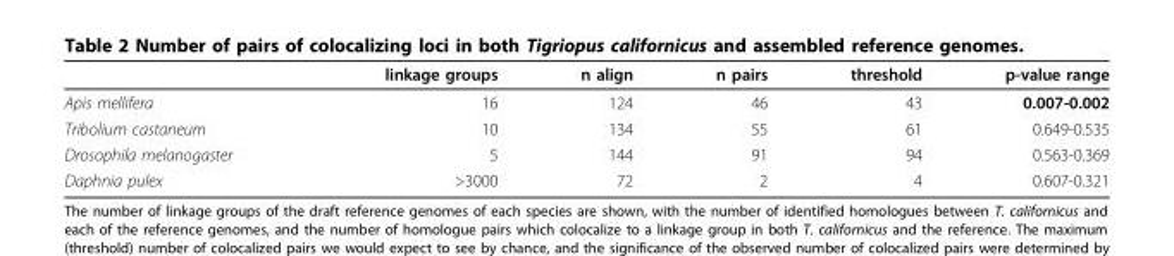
<table><thead><tr><td></td><td>linkage groups</td><td>n align</td><td>n pairs</td><td>threshold</td><td>p-value range</td></tr></thead><tbody><tr><td>Apis mellifera</td><td>16</td><td>124</td><td>46</td><td>43</td><td>0.007-0.002</td></tr><tr><td>Tribolium castaneum</td><td>10</td><td>134</td><td>55</td><td>61</td><td>0.649-0.535</td></tr><tr><td>Drosophila melanogaster</td><td>5</td><td>144</td><td>91</td><td>94</td><td>0.563-0.369</td></tr><tr><td>Daphnia pulex</td><td>&gt;3000</td><td>72</td><td>2</td><td>4</td><td>0.607-0.321</td></tr></tbody></table>